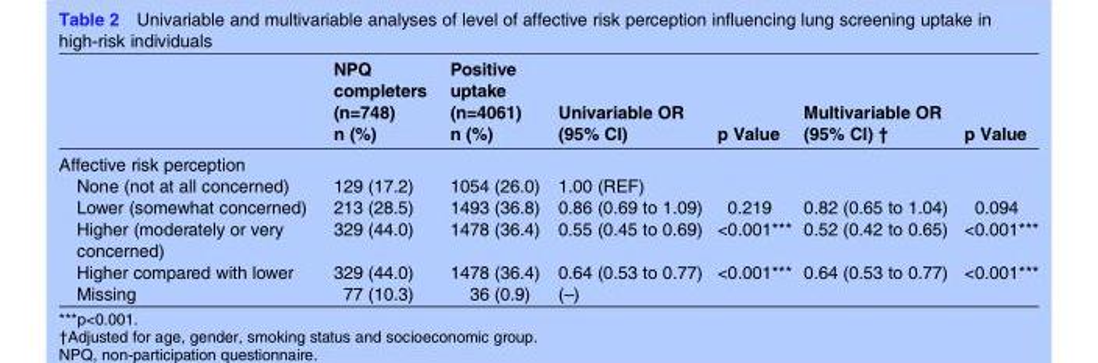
<table><thead><tr><td></td><td>NPQ completers (n=748) n (%)</td><td>Positive uptake (n=4061) n (%)</td><td>Univariable OR (95% CI)</td><td>p Value</td><td>Multivariable OR (95% CI) †</td><td>p Value</td></tr></thead><tbody><tr><td colspan="7">Affective risk perception</td></tr><tr><td>None (not at all concerned)</td><td>129 (17.2)</td><td>1054 (26.0)</td><td colspan="4">1.00 (REF)</td></tr><tr><td>Lower (somewhat concerned)</td><td>213 (28.5)</td><td>1493 (36.8)</td><td>0.86 (0.69 to 1.09)</td><td>0.219</td><td>0.82 (0.65 to 1.04)</td><td>0.094</td></tr><tr><td>Higher (moderately or very concerned)</td><td>329 (44.0)</td><td>1478 (36.4)</td><td>0.55 (0.45 to 0.69)</td><td>&lt;0.001***</td><td>0.52 (0.42 to 0.65)</td><td>&lt;0.001***</td></tr><tr><td>Higher compared with lower</td><td>329 (44.0)</td><td>1478 (36.4)</td><td>0.64 (0.53 to 0.77)</td><td>&lt;0.001***</td><td>0.64 (0.53 to 0.77)</td><td>&lt;0.001***</td></tr><tr><td>Missing</td><td>77 (10.3)</td><td>36 (0.9)</td><td colspan="4">(–)</td></tr></tbody></table>